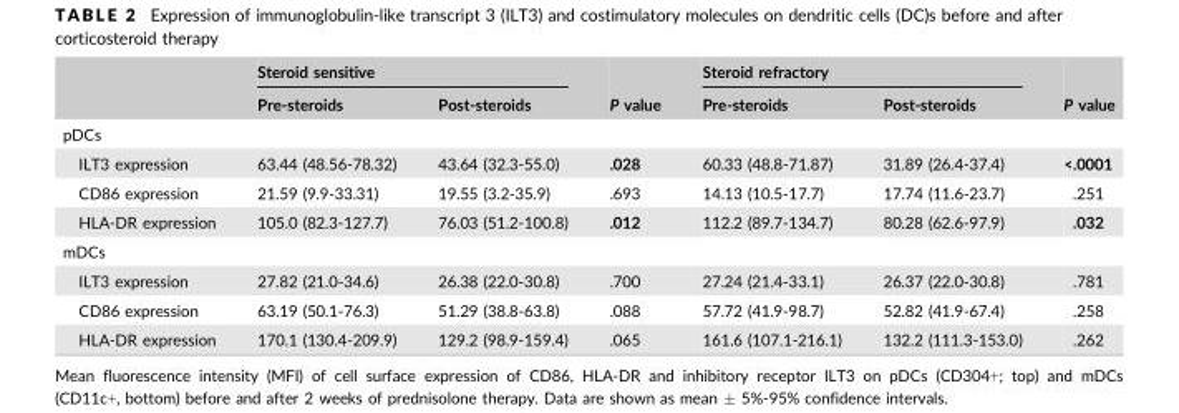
<table><thead><tr><td rowspan="2"></td><td colspan="2">Steroid sensitive</td><td rowspan="2">P value</td><td colspan="2">Steroid refractory</td><td rowspan="2">P value</td></tr><tr><td>Pre-steroids</td><td>Post-steroids</td><td>Pre-steroids</td><td>Post-steroids</td></tr></thead><tbody><tr><td colspan="7">pDCs</td></tr><tr><td>ILT3 expression</td><td>63.44 (48.56-78.32)</td><td>43.64 (32.3-55.0)</td><td>.028</td><td>60.33 (48.8-71.87)</td><td>31.89 (26.4-37.4)</td><td>&lt;.0001</td></tr><tr><td>CD86 expression</td><td>21.59 (9.9-33.31)</td><td>19.55 (3.2-35.9)</td><td>.693</td><td>14.13 (10.5-17.7)</td><td>17.74 (11.6-23.7)</td><td>.251</td></tr><tr><td>HLA-DR expression</td><td>105.0 (82.3-127.7)</td><td>76.03 (51.2-100.8)</td><td>.012</td><td>112.2 (89.7-134.7)</td><td>80.28 (62.6-97.9)</td><td>.032</td></tr><tr><td colspan="7">mDCs</td></tr><tr><td>ILT3 expression</td><td>27.82 (21.0-34.6)</td><td>26.38 (22.0-30.8)</td><td>.700</td><td>27.24 (21.4-33.1)</td><td>26.37 (22.0-30.8)</td><td>.781</td></tr><tr><td>CD86 expression</td><td>63.19 (50.1-76.3)</td><td>51.29 (38.8-63.8)</td><td>.088</td><td>57.72 (41.9-98.7)</td><td>52.82 (41.9-67.4)</td><td>.258</td></tr><tr><td>HLA-DR expression</td><td>170.1 (130.4-209.9)</td><td>129.2 (98.9-159.4)</td><td>.065</td><td>161.6 (107.1-216.1)</td><td>132.2 (111.3-153.0)</td><td>.262</td></tr></tbody></table>